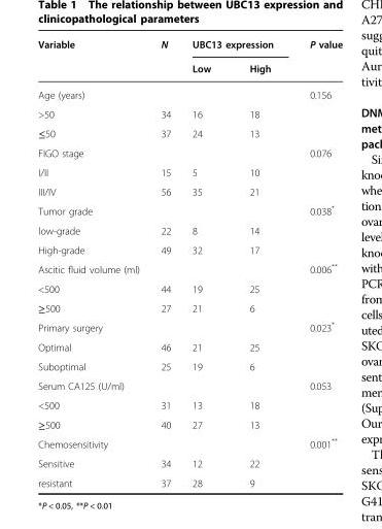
<table><thead><tr><td rowspan="2">Variable</td><td rowspan="2">N</td><td colspan="2">UBC13 expression</td><td rowspan="2">P value</td></tr><tr><td>Low</td><td>High</td></tr></thead><tbody><tr><td>Age (years)</td><td></td><td></td><td></td><td>0.156</td></tr><tr><td>&gt;50</td><td>34</td><td>16</td><td>18</td><td></td></tr><tr><td>≤50</td><td>37</td><td>24</td><td>13</td><td></td></tr><tr><td>FIGO stage</td><td></td><td></td><td></td><td>0.076</td></tr><tr><td>I/II</td><td>15</td><td>5</td><td>10</td><td></td></tr><tr><td>III/IV</td><td>56</td><td>35</td><td>21</td><td></td></tr><tr><td>Tumor grade</td><td></td><td></td><td></td><td>0.038*</td></tr><tr><td>low-grade</td><td>22</td><td>8</td><td>14</td><td></td></tr><tr><td>High-grade</td><td>49</td><td>32</td><td>17</td><td></td></tr><tr><td>Ascitic fluid volume (ml)</td><td></td><td></td><td></td><td>0.006**</td></tr><tr><td>&lt;500</td><td>44</td><td>19</td><td>25</td><td></td></tr><tr><td>≥500</td><td>27</td><td>21</td><td>6</td><td></td></tr><tr><td>Primary surgery</td><td></td><td></td><td></td><td>0.023*</td></tr><tr><td>Optimal</td><td>46</td><td>21</td><td>25</td><td></td></tr><tr><td>Suboptimal</td><td>25</td><td>19</td><td>6</td><td></td></tr><tr><td>Serum CA125 (U/ml)</td><td></td><td></td><td></td><td>0.053</td></tr><tr><td>&lt;500</td><td>31</td><td>13</td><td>18</td><td></td></tr><tr><td>≥500</td><td>40</td><td>27</td><td>13</td><td></td></tr><tr><td>Chemosensitivity</td><td></td><td></td><td></td><td>0.001**</td></tr><tr><td>Sensitive</td><td>34</td><td>12</td><td>22</td><td></td></tr><tr><td>resistant</td><td>37</td><td>28</td><td>9</td><td></td></tr></tbody></table>